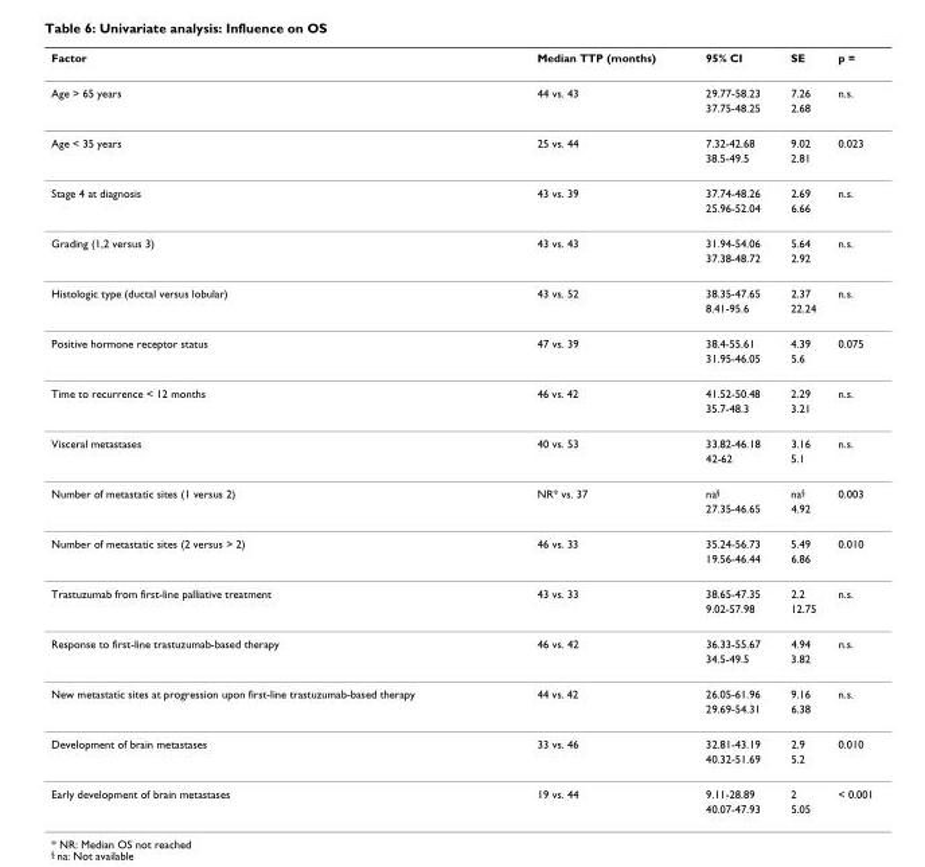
<table><thead><tr><td>Factor</td><td>Median TTP (months)</td><td>95% CI</td><td>SE</td><td>p =</td></tr></thead><tbody><tr><td rowspan="2">Age &gt; 65 years</td><td>44 vs. 43</td><td>29.77-58.23</td><td>7.26</td><td>n.s.</td></tr><tr><td></td><td>37.75-48.25</td><td>2.68</td><td></td></tr><tr><td rowspan="2">Age &lt; 35 years</td><td>25 vs. 44</td><td>7.32-42.68</td><td>9.02</td><td>0.023</td></tr><tr><td></td><td>38.5-49.5</td><td>2.81</td><td></td></tr><tr><td rowspan="2">Stage 4 at diagnosis</td><td>43 vs. 39</td><td>37.74-48.26</td><td>2.69</td><td>n.s.</td></tr><tr><td></td><td>25.96-52.04</td><td>6.66</td><td></td></tr><tr><td rowspan="2">Grading (1,2 versus 3)</td><td>43 vs. 43</td><td>31.94-54.06</td><td>5.64</td><td>n.s.</td></tr><tr><td></td><td>37.38-48.72</td><td>2.92</td><td></td></tr><tr><td rowspan="2">Histologic type (ductal versus lobular)</td><td>43 vs. 52</td><td>38.35-47.65</td><td>2.37</td><td>n.s.</td></tr><tr><td></td><td>8.41-95.6</td><td>22.24</td><td></td></tr><tr><td rowspan="2">Positive hormone receptor status</td><td>47 vs. 39</td><td>38.4-55.61</td><td>4.39</td><td>0.075</td></tr><tr><td></td><td>31.95-46.05</td><td>5.6</td><td></td></tr><tr><td rowspan="2">Time to recurrence &lt; 12 months</td><td>46 vs. 42</td><td>41.52-50.48</td><td>2.29</td><td>n.s.</td></tr><tr><td></td><td>35.7-48.3</td><td>3.21</td><td></td></tr><tr><td rowspan="2">Visceral metastases</td><td>40 vs. 53</td><td>33.82-46.18</td><td>3.16</td><td>n.s.</td></tr><tr><td></td><td>42-62</td><td>5.1</td><td></td></tr><tr><td rowspan="2">Number of metastatic sites (1 versus 2)</td><td>NR* vs. 37</td><td>na<sup>§</sup></td><td>na<sup>§</sup></td><td>0.003</td></tr><tr><td></td><td>27.35-46.65</td><td>4.92</td><td></td></tr><tr><td rowspan="2">Number of metastatic sites (2 versus &gt; 2)</td><td>46 vs. 33</td><td>35.24-56.73</td><td>5.49</td><td>0.010</td></tr><tr><td></td><td>19.56-46.44</td><td>6.86</td><td></td></tr><tr><td rowspan="2">Trastuzumab from first-line palliative treatment</td><td>43 vs. 33</td><td>38.65-47.35</td><td>2.2</td><td>n.s.</td></tr><tr><td></td><td>9.02-57.98</td><td>12.75</td><td></td></tr><tr><td rowspan="2">Response to first-line trastuzumab-based therapy</td><td>46 vs. 42</td><td>36.33-55.67</td><td>4.94</td><td>n.s.</td></tr><tr><td></td><td>34.5-49.5</td><td>3.82</td><td></td></tr><tr><td rowspan="2">New metastatic sites at progression upon first-line trastuzumab-based therapy</td><td>44 vs. 42</td><td>26.05-61.96</td><td>9.16</td><td>n.s.</td></tr><tr><td></td><td>29.69-54.31</td><td>6.38</td><td></td></tr><tr><td rowspan="2">Development of brain metastases</td><td>33 vs. 46</td><td>32.81-43.19</td><td>2.9</td><td>0.010</td></tr><tr><td></td><td>40.32-51.69</td><td>5.2</td><td></td></tr><tr><td rowspan="2">Early development of brain metastases</td><td>19 vs. 44</td><td>9.11-28.89</td><td>2</td><td>&lt; 0.001</td></tr><tr><td></td><td>40.07-47.93</td><td>5.05</td><td></td></tr></tbody></table>